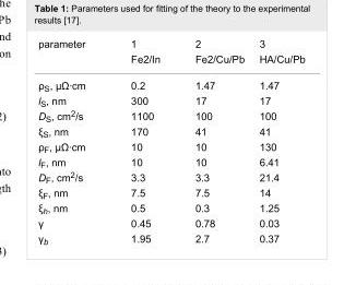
<table><tbody><tr><td rowspan="2">parameter</td><td>1</td><td>2</td><td>3</td></tr><tr><td>Fe2/In</td><td>Fe2/Cu/Pb</td><td>HA/Cu/Pb</td></tr><tr><td>ρ<sub>S</sub>, μΩ·cm</td><td>0.2</td><td>1.47</td><td>1.47</td></tr><tr><td>l<sub>S</sub>, nm</td><td>300</td><td>17</td><td>17</td></tr><tr><td>D<sub>S</sub>, cm<sup>2</sup>/s</td><td>1100</td><td>100</td><td>100</td></tr><tr><td>ξ<sub>S</sub>, nm</td><td>170</td><td>41</td><td>41</td></tr><tr><td>ρ<sub>F</sub>, μΩ·cm</td><td>10</td><td>10</td><td>130</td></tr><tr><td>l<sub>F</sub>, nm</td><td>10</td><td>10</td><td>6.41</td></tr><tr><td>D<sub>F</sub>, cm<sup>2</sup>/s</td><td>3.3</td><td>3.3</td><td>21.4</td></tr><tr><td>ξ<sub>F</sub>, nm</td><td>7.5</td><td>7.5</td><td>14</td></tr><tr><td>ξ<sub>h</sub>, nm</td><td>0.5</td><td>0.3</td><td>1.25</td></tr><tr><td>γ</td><td>0.45</td><td>0.78</td><td>0.03</td></tr><tr><td>γ<sub>b</sub></td><td>1.95</td><td>2.7</td><td>0.37</td></tr></tbody></table>